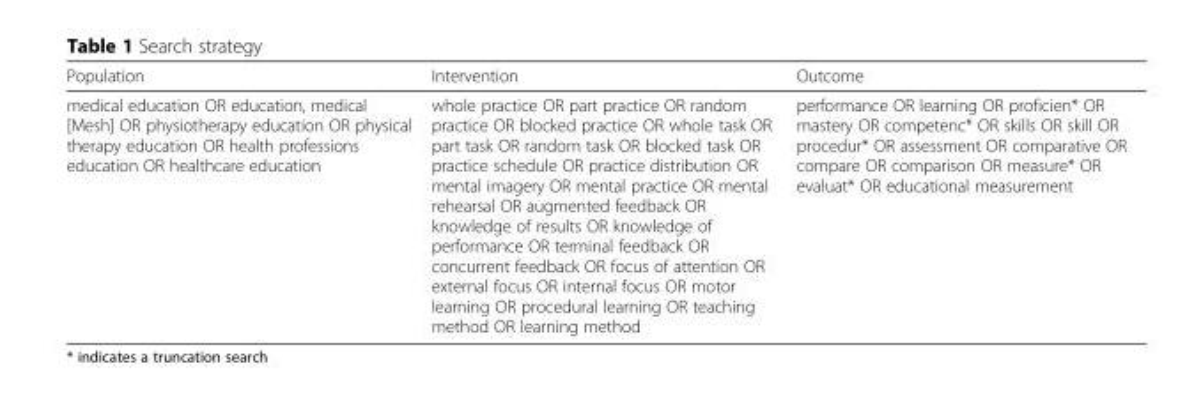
<table><thead><tr><td>Population</td><td>Intervention</td><td>Outcome</td></tr></thead><tbody><tr><td>medical education OR education, medical [Mesh] OR physiotherapy education OR physical therapy education OR health professions education OR healthcare education</td><td>whole practice OR part practice OR random practice OR blocked practice OR whole task OR part task OR random task OR blocked task OR practice schedule OR practice distribution OR mental imagery OR mental practice OR mental rehearsal OR augmented feedback OR knowledge of results OR knowledge of performance OR terminal feedback OR concurrent feedback OR focus of attention OR external focus OR internal focus OR motor learning OR procedural learning OR teaching method OR learning method</td><td>performance OR learning OR proficien* OR mastery OR competenc* OR skills OR skill OR procedur* OR assessment OR comparative OR compare OR comparison OR measure* OR evaluat* OR educational measurement</td></tr></tbody></table>